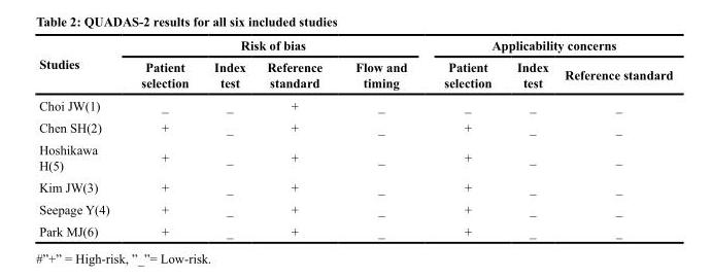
<table><thead><tr><td rowspan="2">Studies</td><td colspan="4">Risk of bias</td><td colspan="3">Applicability concerns</td></tr><tr><td>Patient selection</td><td>Index test</td><td>Reference standard</td><td>Flow and timing</td><td>Patient selection</td><td>Index test</td><td>Reference standard</td></tr></thead><tbody><tr><td>Choi JW(1)</td><td>_</td><td>_</td><td>+</td><td>_</td><td>_</td><td>_</td><td>_</td></tr><tr><td>Chen SH(2)</td><td>+</td><td>_</td><td>+</td><td>_</td><td>+</td><td>_</td><td>_</td></tr><tr><td>Hoshikawa H(5)</td><td>+</td><td>_</td><td>+</td><td>_</td><td>+</td><td>_</td><td>_</td></tr><tr><td>Kim JW(3)</td><td>+</td><td>_</td><td>+</td><td>_</td><td>+</td><td>_</td><td>_</td></tr><tr><td>Seepage Y(4)</td><td>+</td><td>_</td><td>+</td><td>_</td><td>+</td><td>_</td><td>_</td></tr><tr><td>Park MJ(6)</td><td>+</td><td>_</td><td>+</td><td>_</td><td>+</td><td>_</td><td>_</td></tr></tbody></table>